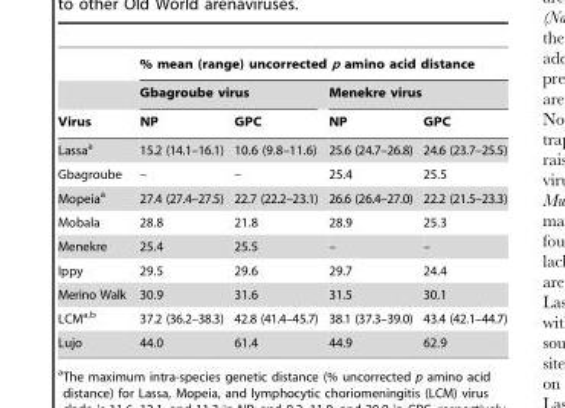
<table><thead><tr><td rowspan="3">Virus</td><td colspan="4">% mean (range) uncorrected p amino acid distance</td></tr><tr><td colspan="2">Gbagroube virus</td><td colspan="2">Menekre virus</td></tr><tr><td>NP</td><td>GPC</td><td>NP</td><td>GPC</td></tr></thead><tbody><tr><td>Lassa<sup>a</sup></td><td>15.2 (14.1–16.1)</td><td>10.6 (9.8–11.6)</td><td>25.6 (24.7–26.8)</td><td>24.6 (23.7–25.5)</td></tr><tr><td>Gbagroube</td><td>–</td><td>–</td><td>25.4</td><td>25.5</td></tr><tr><td>Mopeia<sup>a</sup></td><td>27.4 (27.4–27.5)</td><td>22.7 (22.2–23.1)</td><td>26.6 (26.4–27.0)</td><td>22.2 (21.5–23.3)</td></tr><tr><td>Mobala</td><td>28.8</td><td>21.8</td><td>28.9</td><td>25.3</td></tr><tr><td>Menekre</td><td>25.4</td><td>25.5</td><td>–</td><td>–</td></tr><tr><td>Ippy</td><td>29.5</td><td>29.6</td><td>29.7</td><td>24.4</td></tr><tr><td>Merino Walk</td><td>30.9</td><td>31.6</td><td>31.5</td><td>30.1</td></tr><tr><td>LCM<sup>a,</sup>b</td><td>37.2 (36.2–38.3)</td><td>42.8 (41.4–45.7)</td><td>38.1 (37.3–39.0)</td><td>43.4 (42.1–44.7)</td></tr><tr><td>Lujo</td><td>44.0</td><td>61.4</td><td>44.9</td><td>62.9</td></tr></tbody></table>